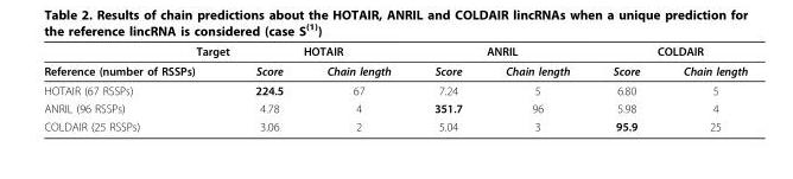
<table><thead><tr><td rowspan="2">Target Reference (number of RSSPs)</td><td colspan="2">HOTAIR</td><td colspan="2">ANRIL</td><td colspan="2">COLDAIR</td></tr><tr><td>Score</td><td>Chain length</td><td>Score</td><td>Chain length</td><td>Score</td><td>Chain length</td></tr></thead><tbody><tr><td>HOTAIR (67 RSSPs)</td><td>224.5</td><td>67</td><td>7.24</td><td>5</td><td>6.80</td><td>5</td></tr><tr><td>ANRIL (96 RSSPs)</td><td>4.78</td><td>4</td><td>351.7</td><td>96</td><td>5.98</td><td>4</td></tr><tr><td>COLDAIR (25 RSSPs)</td><td>3.06</td><td>2</td><td>5.04</td><td>3</td><td>95.9</td><td>25</td></tr></tbody></table>